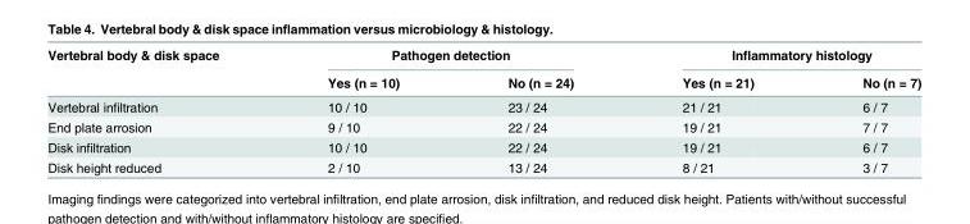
<table><thead><tr><td rowspan="2">Vertebral body &amp; disk space</td><td colspan="2">Pathogen detection</td><td colspan="2">Inflammatory histology</td></tr><tr><td>Yes (n = 10)</td><td>No (n = 24)</td><td>Yes (n = 21)</td><td>No (n = 7)</td></tr></thead><tbody><tr><td>Vertebral infiltration</td><td>10 / 10</td><td>23 / 24</td><td>21 / 21</td><td>6 / 7</td></tr><tr><td>End plate arrosion</td><td>9 / 10</td><td>22 / 24</td><td>19 / 21</td><td>7 / 7</td></tr><tr><td>Disk infiltration</td><td>10 / 10</td><td>22 / 24</td><td>19 / 21</td><td>6 / 7</td></tr><tr><td>Disk height reduced</td><td>2 / 10</td><td>13 / 24</td><td>8 / 21</td><td>3 / 7</td></tr></tbody></table>